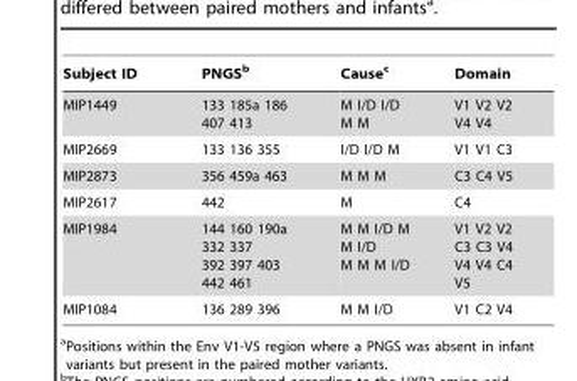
<table><thead><tr><td>Subject ID</td><td>PNGS<sup>b</sup></td><td>Cause<sup>c</sup></td><td>Domain</td></tr></thead><tbody><tr><td>MIP1449</td><td>133 185a 186 407 413</td><td>M I/D I/D M M</td><td>V1 V2 V2 V4 V4</td></tr><tr><td>MIP2669</td><td>133 136 355</td><td>I/D I/D M</td><td>V1 V1 C3</td></tr><tr><td>MIP2873</td><td>356 459a 463</td><td>M M M</td><td>C3 C4 V5</td></tr><tr><td>MIP2617</td><td>442</td><td>M</td><td>C4</td></tr><tr><td>MIP1984</td><td>144 160 190a 332 337 392 397 403 442 461</td><td>M M I/D M M I/D M M M I/D</td><td>V1 V2 V2 C3 C3 V4 V4 V4 C4 V5</td></tr><tr><td>MIP1084</td><td>136 289 396</td><td>M M I/D</td><td>V1 C2 V4</td></tr></tbody></table>